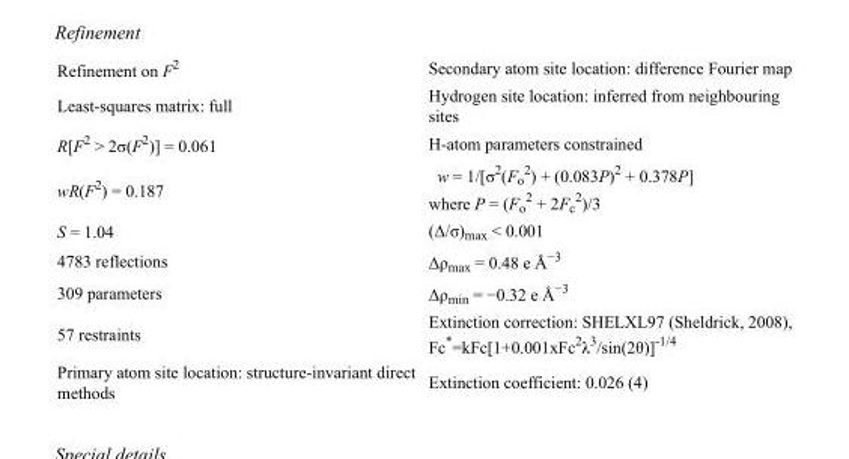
<table><tbody><tr><td>Refinement on F<sup>2</sup></td><td>Secondary atom site location: difference Fourier map</td></tr><tr><td>Least-squares matrix: full</td><td>Hydrogen site location: inferred from neighbouring sites</td></tr><tr><td>R[F<sup>2</sup> &gt; 2σ(F<sup>2</sup>)] = 0.061</td><td>H-atom parameters constrained</td></tr><tr><td>wR(F<sup>2</sup>) = 0.187</td><td>w = 1/[σ<sup>2</sup>(F<sub>o</sub> <sup>2</sup>) + (0.083P)<sup>2</sup> + 0.378P] where P = (F<sub>o</sub> <sup>2</sup> + 2F<sub>c</sub> <sup>2</sup>)/3</td></tr><tr><td>S = 1.04</td><td>(Δ/σ)<sub>max</sub> &lt; 0.001</td></tr><tr><td>4783 reflections</td><td>Δρ<sub>max</sub> = 0.48 e Å<sup>−3</sup></td></tr><tr><td>309 parameters</td><td>Δρ<sub>min</sub> = −0.32 e Å<sup>−3</sup></td></tr><tr><td>57 restraints</td><td>Extinction correction: SHELXL97 (Sheldrick, 2008), Fc*=kFc[1+0.001xFc<sup>2</sup>λ<sup>3</sup>/sin(2θ)]<sup>-1/4</sup></td></tr><tr><td>Primary atom site location: structure-invariant direct methods</td><td>Extinction coefficient: 0.026 (4)</td></tr></tbody></table>